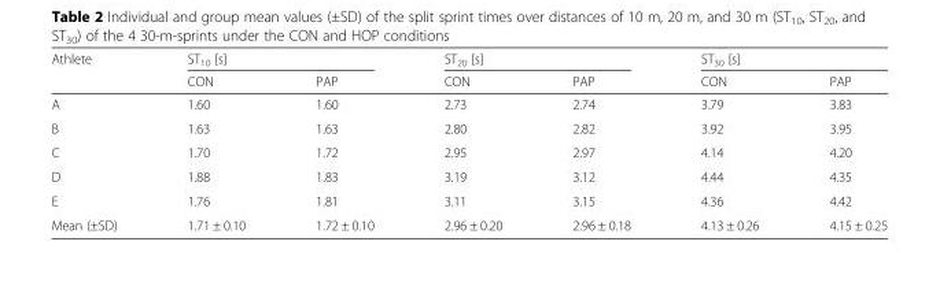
<table><thead><tr><td rowspan="2">Athlete</td><td colspan="2">ST<sub>10</sub> [s]</td><td colspan="2">ST<sub>20</sub> [s]</td><td colspan="2">ST<sub>30</sub> [s]</td></tr><tr><td>CON</td><td>PAP</td><td>CON</td><td>PAP</td><td>CON</td><td>PAP</td></tr></thead><tbody><tr><td>A</td><td>1.60</td><td>1.60</td><td>2.73</td><td>2.74</td><td>3.79</td><td>3.83</td></tr><tr><td>B</td><td>1.63</td><td>1.63</td><td>2.80</td><td>2.82</td><td>3.92</td><td>3.95</td></tr><tr><td>C</td><td>1.70</td><td>1.72</td><td>2.95</td><td>2.97</td><td>4.14</td><td>4.20</td></tr><tr><td>D</td><td>1.88</td><td>1.83</td><td>3.19</td><td>3.12</td><td>4.44</td><td>4.35</td></tr><tr><td>E</td><td>1.76</td><td>1.81</td><td>3.11</td><td>3.15</td><td>4.36</td><td>4.42</td></tr><tr><td>Mean (±SD)</td><td>1.71 ± 0.10</td><td>1.72 ± 0.10</td><td>2.96 ± 0.20</td><td>2.96 ± 0.18</td><td>4.13 ± 0.26</td><td>4.15 ± 0.25</td></tr></tbody></table>